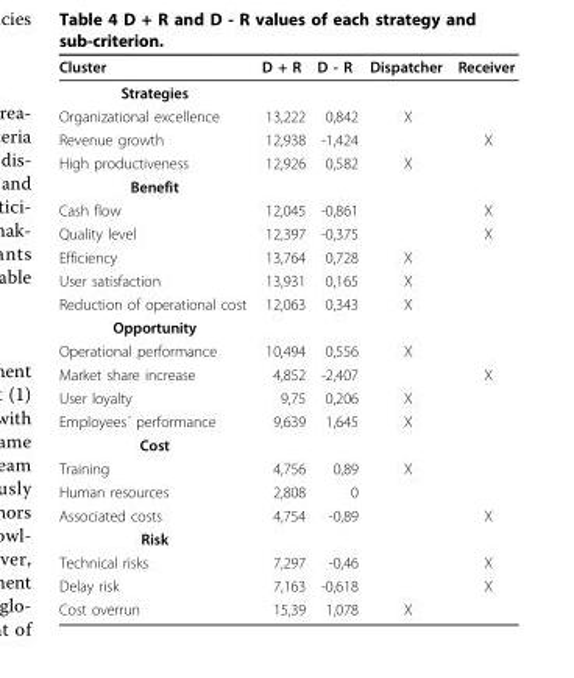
<table><thead><tr><td>Cluster</td><td>D + R</td><td>D - R</td><td>Dispatcher</td><td>Receiver</td></tr></thead><tbody><tr><td colspan="5">Strategies</td></tr><tr><td>Organizational excellence</td><td>13,222</td><td>0,842</td><td>X</td><td></td></tr><tr><td>Revenue growth</td><td>12,938</td><td>-1,424</td><td></td><td>X</td></tr><tr><td>High productiveness</td><td>12,926</td><td>0,582</td><td>X</td><td></td></tr><tr><td colspan="5">Benefit</td></tr><tr><td>Cash flow</td><td>12,045</td><td>-0,861</td><td></td><td>X</td></tr><tr><td>Quality level</td><td>12,397</td><td>-0,375</td><td></td><td>X</td></tr><tr><td>Efficiency</td><td>13,764</td><td>0,728</td><td>X</td><td></td></tr><tr><td>User satisfaction</td><td>13,931</td><td>0,165</td><td>X</td><td></td></tr><tr><td>Reduction of operational cost</td><td>12,063</td><td>0,343</td><td>X</td><td></td></tr><tr><td colspan="5">Opportunity</td></tr><tr><td>Operational performance</td><td>10,494</td><td>0,556</td><td>X</td><td></td></tr><tr><td>Market share increase</td><td>4,852</td><td>-2,407</td><td></td><td>X</td></tr><tr><td>User loyalty</td><td>9,75</td><td>0,206</td><td>X</td><td></td></tr><tr><td>Employees´ performance</td><td>9,639</td><td>1,645</td><td>X</td><td></td></tr><tr><td colspan="5">Cost</td></tr><tr><td>Training</td><td>4,756</td><td>0,89</td><td>X</td><td></td></tr><tr><td>Human resources</td><td>2,808</td><td>0</td><td></td><td></td></tr><tr><td>Associated costs</td><td>4,754</td><td>-0,89</td><td></td><td>X</td></tr><tr><td colspan="5">Risk</td></tr><tr><td>Technical risks</td><td>7,297</td><td>-0,46</td><td></td><td>X</td></tr><tr><td>Delay risk</td><td>7,163</td><td>-0,618</td><td></td><td>X</td></tr><tr><td>Cost overrun</td><td>15,39</td><td>1,078</td><td>X</td><td></td></tr></tbody></table>